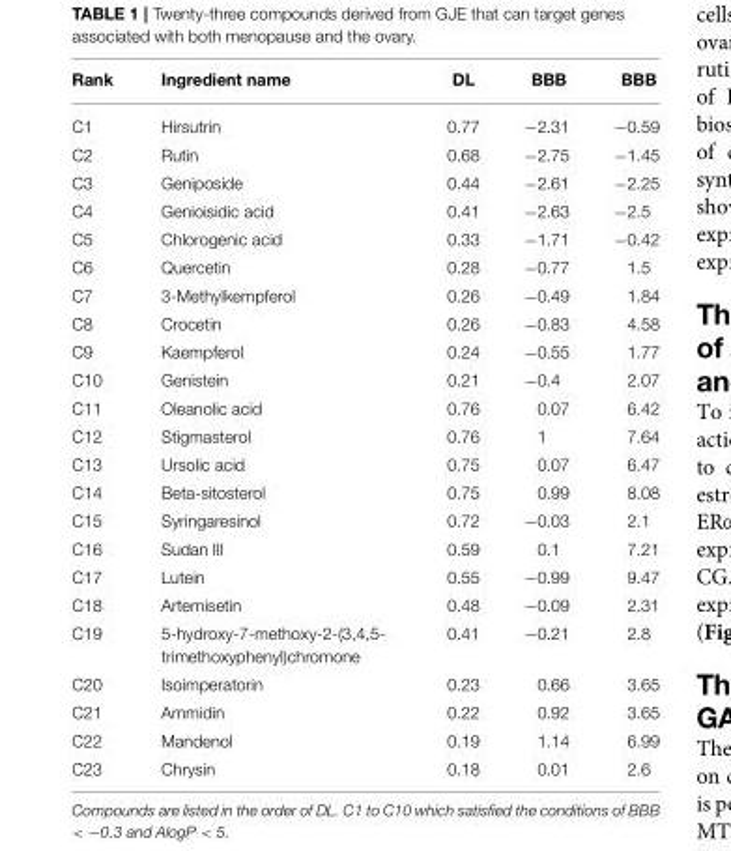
<table><thead><tr><td>Rank</td><td>Ingredient name</td><td>DL</td><td>BBB</td><td>BBB</td></tr></thead><tbody><tr><td>C1</td><td>Hirsutrin</td><td>0.77</td><td>−2.31</td><td>−0.59</td></tr><tr><td>C2</td><td>Rutin</td><td>0.68</td><td>−2.75</td><td>−1.45</td></tr><tr><td>C3</td><td>Geniposide</td><td>0.44</td><td>−2.61</td><td>−2.25</td></tr><tr><td>C4</td><td>Genioisidic acid</td><td>0.41</td><td>−2.63</td><td>−2.5</td></tr><tr><td>C5</td><td>Chlorogenic acid</td><td>0.33</td><td>−1.71</td><td>−0.42</td></tr><tr><td>C6</td><td>Quercetin</td><td>0.28</td><td>−0.77</td><td>1.5</td></tr><tr><td>C7</td><td>3-Methylkempferol</td><td>0.26</td><td>−0.49</td><td>1.84</td></tr><tr><td>C8</td><td>Crocetin</td><td>0.26</td><td>−0.83</td><td>4.58</td></tr><tr><td>C9</td><td>Kaempferol</td><td>0.24</td><td>−0.55</td><td>1.77</td></tr><tr><td>C10</td><td>Genistein</td><td>0.21</td><td>−0.4</td><td>2.07</td></tr><tr><td>C11</td><td>Oleanolic acid</td><td>0.76</td><td>0.07</td><td>6.42</td></tr><tr><td>C12</td><td>Stigmasterol</td><td>0.76</td><td>1</td><td>7.64</td></tr><tr><td>C13</td><td>Ursolic acid</td><td>0.75</td><td>0.07</td><td>6.47</td></tr><tr><td>C14</td><td>Beta-sitosterol</td><td>0.75</td><td>0.99</td><td>8.08</td></tr><tr><td>C15</td><td>Syringaresinol</td><td>0.72</td><td>−0.03</td><td>2.1</td></tr><tr><td>C16</td><td>Sudan III</td><td>0.59</td><td>0.1</td><td>7.21</td></tr><tr><td>C17</td><td>Lutein</td><td>0.55</td><td>−0.99</td><td>9.47</td></tr><tr><td>C18</td><td>Artemisetin</td><td>0.48</td><td>−0.09</td><td>2.31</td></tr><tr><td>C19</td><td>5-hydroxy-7-methoxy-2-(3,4,5- trimethoxyphenyl)chromone</td><td>0.41</td><td>−0.21</td><td>2.8</td></tr><tr><td>C20</td><td>Isoimperatorin</td><td>0.23</td><td>0.66</td><td>3.65</td></tr><tr><td>C21</td><td>Ammidin</td><td>0.22</td><td>0.92</td><td>3.65</td></tr><tr><td>C22</td><td>Mandenol</td><td>0.19</td><td>1.14</td><td>6.99</td></tr><tr><td>C23</td><td>Chrysin</td><td>0.18</td><td>0.01</td><td>2.6</td></tr></tbody></table>